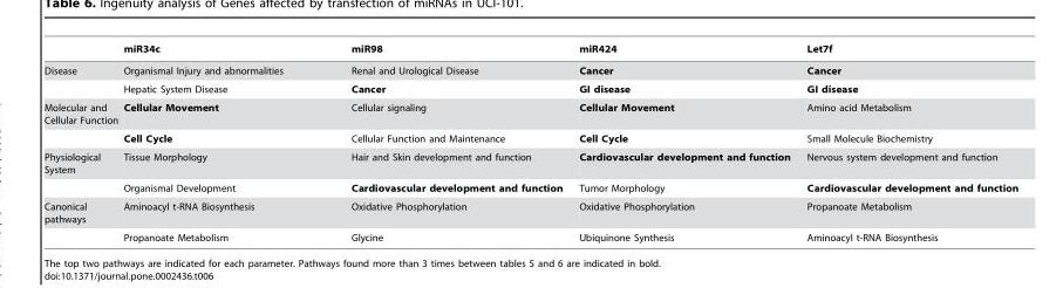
<table><thead><tr><td></td><td>miR34c</td><td>miR98</td><td>miR424</td><td>Let7f</td></tr></thead><tbody><tr><td rowspan="2">Disease</td><td>Organismal Injury and abnormalities</td><td>Renal and Urological Disease</td><td>Cancer</td><td>Cancer</td></tr><tr><td>Hepatic System Disease</td><td>Cancer</td><td>GI disease</td><td>GI disease</td></tr><tr><td rowspan="2">Molecular and Cellular Function</td><td>Cellular Movement</td><td>Cellular signaling</td><td>Cellular Movement</td><td>Amino acid Metabolism</td></tr><tr><td>Cell Cycle</td><td>Cellular Function and Maintenance</td><td>Cell Cycle</td><td>Small Molecule Biochemistry</td></tr><tr><td rowspan="2">Physiological System</td><td>Tissue Morphology</td><td>Hair and Skin development and function</td><td>Cardiovascular development and function</td><td>Nervous system development and function</td></tr><tr><td>Organismal Development</td><td>Cardiovascular development and function</td><td>Tumor Morphology</td><td>Cardiovascular development and function</td></tr><tr><td rowspan="2">Canonical pathways</td><td>Aminoacyl t-RNA Biosynthesis</td><td>Oxidative Phosphorylation</td><td>Oxidative Phosphorylation</td><td>Propanoate Metabolism</td></tr><tr><td>Propanoate Metabolism</td><td>Glycine</td><td>Ubiquinone Synthesis</td><td>Aminoacyl t-RNA Biosynthesis</td></tr></tbody></table>